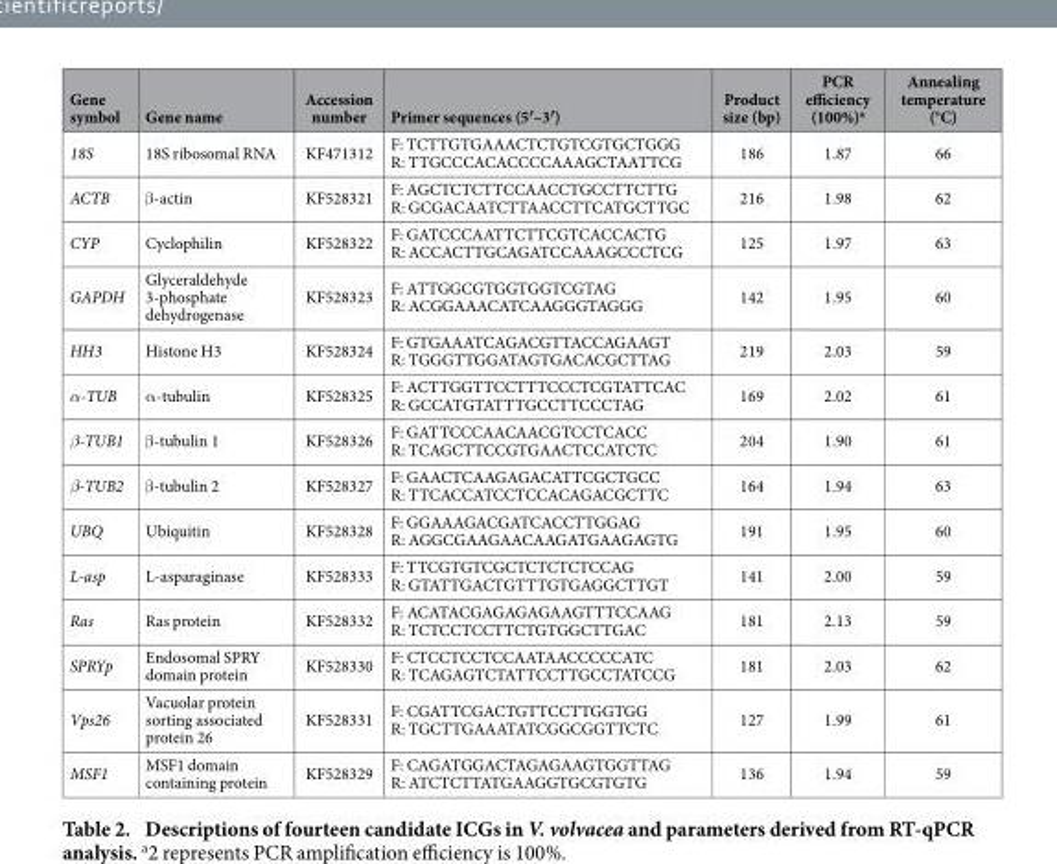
<table><thead><tr><td>Gene symbol</td><td>Gene name</td><td>Accession number</td><td>Primer sequences (5′–3′)</td><td>Product size (bp)</td><td>PCR efficiency (100%)<sup>a</sup></td><td>Annealing temperature (°C)</td></tr></thead><tbody><tr><td>18S</td><td>18S ribosomal RNA</td><td>KF471312</td><td>F: TCTTGTGAAACTCTGTCGTGCTGGG R: TTGCCCACACCCCAAAGCTAATTCG</td><td>186</td><td>1.87</td><td>66</td></tr><tr><td>ACTB</td><td>β -actin</td><td>KF528321</td><td>F: AGCTCTCTTCCAACCTGCCTTCTTG R: GCGACAATCTTAACCTTCATGCTTGC</td><td>216</td><td>1.98</td><td>62</td></tr><tr><td>CYP</td><td>Cyclophilin</td><td>KF528322</td><td>F: GATCCCAATTCTTCGTCACCACTG R: ACCACTTGCAGATCCAAAGCCCTCG</td><td>125</td><td>1.97</td><td>63</td></tr><tr><td>GAPDH</td><td>Glyceraldehyde 3-phosphate dehydrogenase</td><td>KF528323</td><td>F: ATTGGCGTGGTGGTCGTAG R: ACGGAAACATCAAGGGTAGGG</td><td>142</td><td>1.95</td><td>60</td></tr><tr><td>HH3</td><td>Histone H3</td><td>KF528324</td><td>F: GTGAAATCAGACGTTACCAGAAGT R: TGGGTTGGATAGTGACACGCTTAG</td><td>219</td><td>2.03</td><td>59</td></tr><tr><td>α-TUB</td><td>α -tubulin</td><td>KF528325</td><td>F: ACTTGGTTCCTTTCCCTCGTATTCAC R: GCCATGTATTTGCCTTCCCTAG</td><td>169</td><td>2.02</td><td>61</td></tr><tr><td>β-TUB1</td><td>β -tubulin 1</td><td>KF528326</td><td>F: GATTCCCAACAACGTCCTCACC R: TCAGCTTCCGTGAACTCCATCTC</td><td>204</td><td>1.90</td><td>61</td></tr><tr><td>β-TUB2</td><td>β -tubulin 2</td><td>KF528327</td><td>F: GAACTCAAGAGACATTCGCTGCC R: TTCACCATCCTCCACAGACGCTTC</td><td>164</td><td>1.94</td><td>63</td></tr><tr><td>UBQ</td><td>Ubiquitin</td><td>KF528328</td><td>F: GGAAAGACGATCACCTTGGAG R: AGGCGAAGAACAAGATGAAGAGTG</td><td>191</td><td>1.95</td><td>60</td></tr><tr><td>L-asp</td><td>L-asparaginase</td><td>KF528333</td><td>F: TTCGTGTCGCTCTCTCTCCAG R: GTATTGACTGTTTGTGAGGCTTGT</td><td>141</td><td>2.00</td><td>59</td></tr><tr><td>Ras</td><td>Ras protein</td><td>KF528332</td><td>F: ACATACGAGAGAGAAGTTTCCAAG R: TCTCCTCCTTCTGTGGCTTGAC</td><td>181</td><td>2.13</td><td>59</td></tr><tr><td>SPRYp</td><td>Endosomal SPRY domain protein</td><td>KF528330</td><td>F: CTCCTCCTCCAATAACCCCCATC R: TCAGAGTCTATTCCTTGCCTATCCG</td><td>181</td><td>2.03</td><td>62</td></tr><tr><td>Vps26</td><td>Vacuolar protein sorting associated protein 26</td><td>KF528331</td><td>F: CGATTCGACTGTTCCTTGGTGG R: TGCTTGAAATATCGGCGGTTCTC</td><td>127</td><td>1.99</td><td>61</td></tr><tr><td>MSF1</td><td>MSF1 domain containing protein</td><td>KF528329</td><td>F: CAGATGGACTAGAGAAGTGGTTAG R: ATCTCTTATGAAGGTGCGTGTG</td><td>136</td><td>1.94</td><td>59</td></tr></tbody></table>